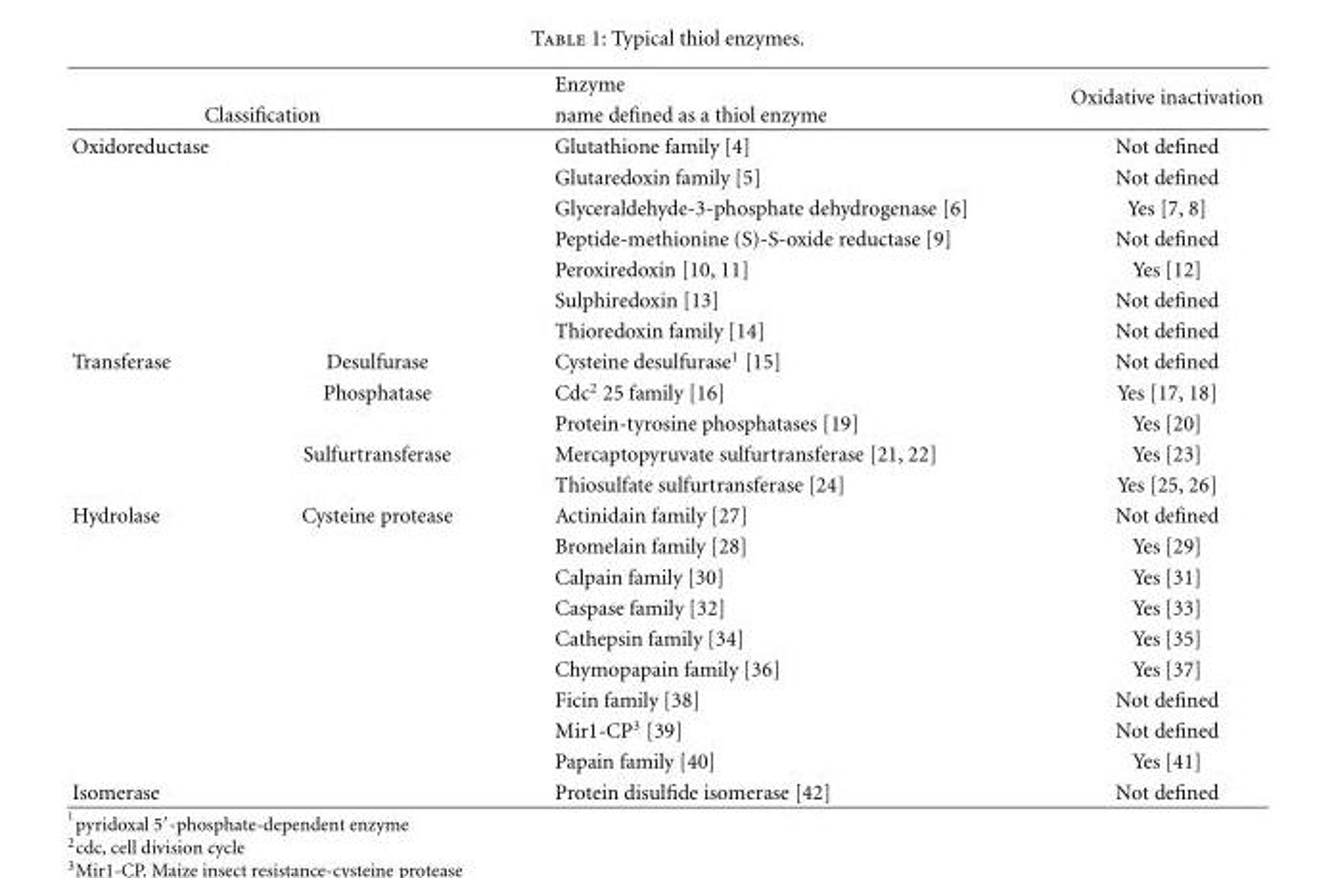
<table><thead><tr><td></td><td></td><td rowspan="2">Enzyme name defined as a thiol enzyme</td><td rowspan="2">Oxidative inactivation</td></tr><tr><td colspan="2">Classification</td></tr></thead><tbody><tr><td rowspan="7">Oxidoreductase</td><td></td><td>Glutathione family [4]</td><td>Not defined</td></tr><tr><td></td><td>Glutaredoxin family [5]</td><td>Not defined</td></tr><tr><td></td><td>Glyceraldehyde-3-phosphate dehydrogenase [6]</td><td>Yes [7, 8]</td></tr><tr><td></td><td>Peptide-methionine (S)-S-oxide reductase [9]</td><td>Not defined</td></tr><tr><td></td><td>Peroxiredoxin [10, 11]</td><td>Yes [12]</td></tr><tr><td></td><td>Sulphiredoxin [13]</td><td>Not defined</td></tr><tr><td></td><td>Thioredoxin family [14]</td><td>Not defined</td></tr><tr><td rowspan="5">Transferase</td><td>Desulfurase</td><td>Cysteine desulfurase<sup>1</sup> [15]</td><td>Not defined</td></tr><tr><td>Phosphatase</td><td>Cdc<sup>2</sup> 25 family [16]</td><td>Yes [17, 18]</td></tr><tr><td></td><td>Protein-tyrosine phosphatases [19]</td><td>Yes [20]</td></tr><tr><td>Sulfurtransferase</td><td>Mercaptopyruvate sulfurtransferase [21, 22]</td><td>Yes [23]</td></tr><tr><td></td><td>Thiosulfate sulfurtransferase [24]</td><td>Yes [25, 26]</td></tr><tr><td rowspan="9">Hydrolase</td><td>Cysteine protease</td><td>Actinidain family [27]</td><td>Not defined</td></tr><tr><td></td><td>Bromelain family [28]</td><td>Yes [29]</td></tr><tr><td></td><td>Calpain family [30]</td><td>Yes [31]</td></tr><tr><td></td><td>Caspase family [32]</td><td>Yes [33]</td></tr><tr><td></td><td>Cathepsin family [34]</td><td>Yes [35]</td></tr><tr><td></td><td>Chymopapain family [36]</td><td>Yes [37]</td></tr><tr><td></td><td>Ficin family [38]</td><td>Not defined</td></tr><tr><td></td><td>Mir1-CP<sup>3</sup> [39]</td><td>Not defined</td></tr><tr><td></td><td>Papain family [40]</td><td>Yes [41]</td></tr><tr><td>Isomerase</td><td></td><td>Protein disulfide isomerase [42]</td><td>Not defined</td></tr></tbody></table>